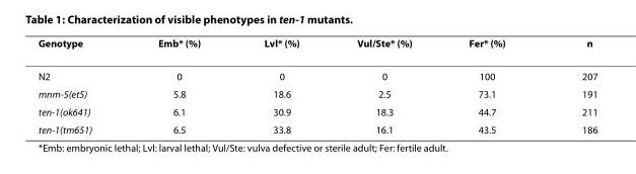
<table><thead><tr><td>Genotype</td><td>Emb* (%)</td><td>Lvl* (%)</td><td>Vul/Ste* (%)</td><td>Fer* (%)</td><td>n</td></tr></thead><tbody><tr><td>N2</td><td>0</td><td>0</td><td>0</td><td>100</td><td>207</td></tr><tr><td>mnm-5(et5)</td><td>5.8</td><td>18.6</td><td>2.5</td><td>73.1</td><td>191</td></tr><tr><td>ten-1(ok641)</td><td>6.1</td><td>30.9</td><td>18.3</td><td>44.7</td><td>211</td></tr><tr><td>ten-1(tm651)</td><td>6.5</td><td>33.8</td><td>16.1</td><td>43.5</td><td>186</td></tr></tbody></table>